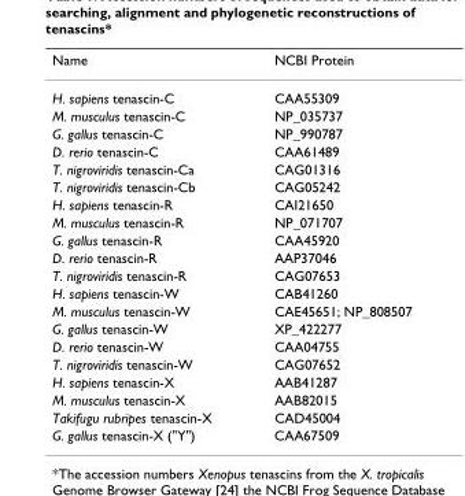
<table><thead><tr><td>Name</td><td>NCBI Protein</td></tr></thead><tbody><tr><td>H. sapiens tenascin-C</td><td>CAA55309</td></tr><tr><td>M. musculus tenascin-C</td><td>NP_035737</td></tr><tr><td>G. gallus tenascin-C</td><td>NP_990787</td></tr><tr><td>D. rerio tenascin-C</td><td>CAA61489</td></tr><tr><td>T. nigroviridis tenascin-Ca</td><td>CAG01316</td></tr><tr><td>T. nigroviridis tenascin-Cb</td><td>CAG05242</td></tr><tr><td>H. sapiens tenascin-R</td><td>CAI21650</td></tr><tr><td>M. musculus tenascin-R</td><td>NP_071707</td></tr><tr><td>G. gallus tenascin-R</td><td>CAA45920</td></tr><tr><td>D. rerio tenascin-R</td><td>AAP37046</td></tr><tr><td>T. nigroviridis tenascin-R</td><td>CAG07653</td></tr><tr><td>H. sapiens tenascin-W</td><td>CAB41260</td></tr><tr><td>M. musculus tenascin-W</td><td>CAE45651; NP_808507</td></tr><tr><td>G. gallus tenascin-W</td><td>XP_422277</td></tr><tr><td>D. rerio tenascin-W</td><td>CAA04755</td></tr><tr><td>T. nigroviridis tenascin-W</td><td>CAG07652</td></tr><tr><td>H. sapiens tenascin-X</td><td>AAB41287</td></tr><tr><td>M. musculus tenascin-X</td><td>AAB82015</td></tr><tr><td>Takifugu rubripes tenascin-X</td><td>CAD45004</td></tr><tr><td>G. gallus tenascin-X (&quot;Y&quot;)</td><td>CAA67509</td></tr></tbody></table>